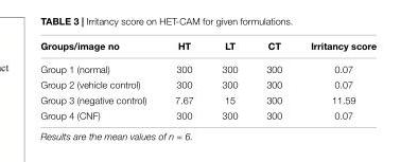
<table><thead><tr><td>Groups/image no</td><td>HT</td><td>LT</td><td>CT</td><td>Irritancy score</td></tr></thead><tbody><tr><td>Group 1 (normal)</td><td>300</td><td>300</td><td>300</td><td>0.07</td></tr><tr><td>Group 2 (vehicle control)</td><td>300</td><td>300</td><td>300</td><td>0.07</td></tr><tr><td>Group 3 (negative control)</td><td>7.67</td><td>15</td><td>300</td><td>11.59</td></tr><tr><td>Group 4 (CNF)</td><td>300</td><td>300</td><td>300</td><td>0.07</td></tr></tbody></table>